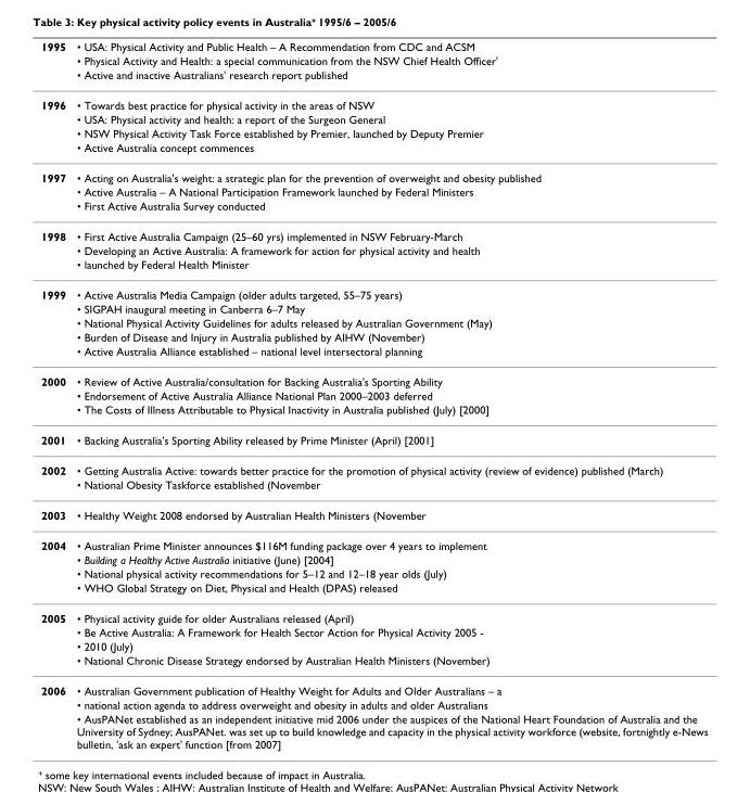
<table><thead><tr><td rowspan="3">1995</td><td rowspan="3">• USA: Physical Activity and Public Health – A Recommendation from CDC and ACSM • Physical Activity and Health: a special communication from the NSW Chief Health Officer&#x27; • Active and inactive Australians&#x27; research report published</td></tr><tr></tr><tr></tr></thead><tbody><tr><td rowspan="4">1996</td><td>• Towards best practice for physical activity in the areas of NSW</td></tr><tr><td>• USA: Physical activity and health: a report of the Surgeon General</td></tr><tr><td>• NSW Physical Activity Task Force established by Premier, launched by Deputy Premier</td></tr><tr><td>• Active Australia concept commences</td></tr><tr><td rowspan="3">1997</td><td>• Acting on Australia&#x27;s weight: a strategic plan for the prevention of overweight and obesity published</td></tr><tr><td>• Active Australia – A National Participation Framework launched by Federal Ministers</td></tr><tr><td>• First Active Australia Survey conducted</td></tr><tr><td rowspan="3">1998</td><td>• First Active Australia Campaign (25–60 yrs) implemented in NSW February-March</td></tr><tr><td>• Developing an Active Australia: A framework for action for physical activity and health</td></tr><tr><td>• launched by Federal Health Minister</td></tr><tr><td rowspan="5">1999</td><td>• Active Australia Media Campaign (older adults targeted, 55–75 years)</td></tr><tr><td>• SIGPAH inaugural meeting in Canberra 6–7 May</td></tr><tr><td>• National Physical Activity Guidelines for adults released by Australian Government (May)</td></tr><tr><td>• Burden of Disease and Injury in Australia published by AIHW (November)</td></tr><tr><td>• Active Australia Alliance established – national level intersectoral planning</td></tr><tr><td rowspan="3">2000</td><td>• Review of Active Australia/consultation for Backing Australia&#x27;s Sporting Ability</td></tr><tr><td>• Endorsement of Active Australia Alliance National Plan 2000–2003 deferred</td></tr><tr><td>• The Costs of Illness Attributable to Physical Inactivity in Australia published (July) [2000]</td></tr><tr><td>2001</td><td>• Backing Australia&#x27;s Sporting Ability released by Prime Minister (April) [2001]</td></tr><tr><td rowspan="2">2002</td><td>• Getting Australia Active: towards better practice for the promotion of physical activity (review of evidence) published (March)</td></tr><tr><td>• National Obesity Taskforce established (November</td></tr><tr><td>2003</td><td>• Healthy Weight 2008 endorsed by Australian Health Ministers (November</td></tr><tr><td rowspan="4">2004</td><td>• Australian Prime Minister announces $116M funding package over 4 years to implement</td></tr><tr><td>• Building a Healthy Active Australia initiative (June) [2004]</td></tr><tr><td>• National physical activity recommendations for 5–12 and 12–18 year olds (July)</td></tr><tr><td>• WHO Global Strategy on Diet, Physical and Health (DPAS) released</td></tr><tr><td rowspan="4">2005</td><td>• Physical activity guide for older Australians released (April)</td></tr><tr><td>• Be Active Australia: A Framework for Health Sector Action for Physical Activity 2005 -</td></tr><tr><td>• 2010 (July)</td></tr><tr><td>• National Chronic Disease Strategy endorsed by Australian Health Ministers (November)</td></tr><tr><td rowspan="3">2006</td><td>• Australian Government publication of Healthy Weight for Adults and Older Australians – a</td></tr><tr><td>• national action agenda to address overweight and obesity in adults and older Australians</td></tr><tr><td>• AusPANet established as an independent initiative mid 2006 under the auspices of the National Heart Foundation of Australia and the University of Sydney; AusPANet. was set up to build knowledge and capacity in the physical activity workforce (website, fortnightly e-News bulletin, &#x27;ask an expert&#x27; function [from 2007]</td></tr></tbody></table>